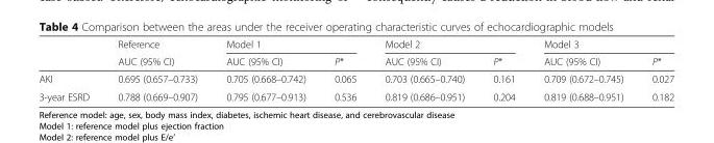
<table><thead><tr><td rowspan="2"></td><td rowspan="2">Reference AUC (95% CI)</td><td colspan="2">Model 1</td><td colspan="2">Model 2</td><td colspan="2">Model 3</td></tr><tr><td>AUC (95% CI)</td><td>P*</td><td>AUC (95% CI)</td><td>P*</td><td>AUC (95% CI)</td><td>P*</td></tr></thead><tbody><tr><td>AKI</td><td>0.695 (0.657–0.733)</td><td>0.705 (0.668–0.742)</td><td>0.065</td><td>0.703 (0.665–0.740)</td><td>0.161</td><td>0.709 (0.672–0.745)</td><td>0.027</td></tr><tr><td>3-year ESRD</td><td>0.788 (0.669–0.907)</td><td>0.795 (0.677–0.913)</td><td>0.536</td><td>0.819 (0.686–0.951)</td><td>0.204</td><td>0.819 (0.688–0.951)</td><td>0.182</td></tr></tbody></table>